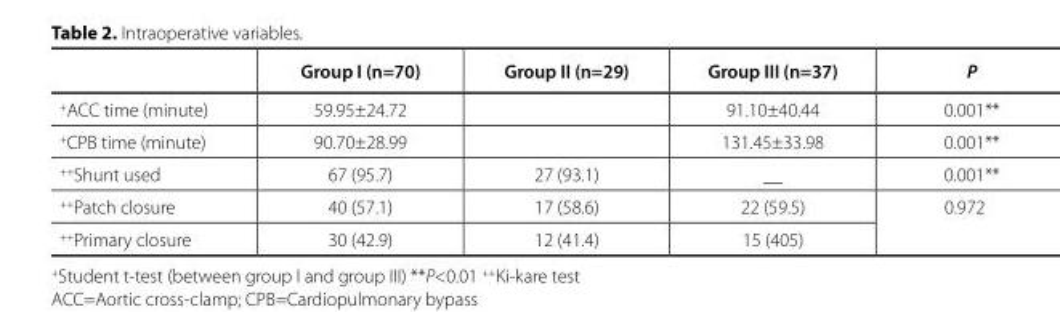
<table><thead><tr><td></td><td>Group I (n=70)</td><td>Group II (n=29)</td><td>Group III (n=37)</td><td>P</td></tr></thead><tbody><tr><td><sup>+</sup>ACC time (minute)</td><td>59.95±24.72</td><td></td><td>91.10±40.44</td><td>0.001**</td></tr><tr><td><sup>+</sup>CPB time (minute)</td><td>90.70±28.99</td><td></td><td>131.45±33.98</td><td>0.001**</td></tr><tr><td><sup>++</sup>Shunt used</td><td>67 (95.7)</td><td>27 (93.1)</td><td>__</td><td>0.001**</td></tr><tr><td><sup>++</sup>Patch closure</td><td>40 (57.1)</td><td>17 (58.6)</td><td>22 (59.5)</td><td rowspan="2">0.972</td></tr><tr><td><sup>++</sup>Primary closure</td><td>30 (42.9)</td><td>12 (41.4)</td><td>15 (405)</td></tr></tbody></table>